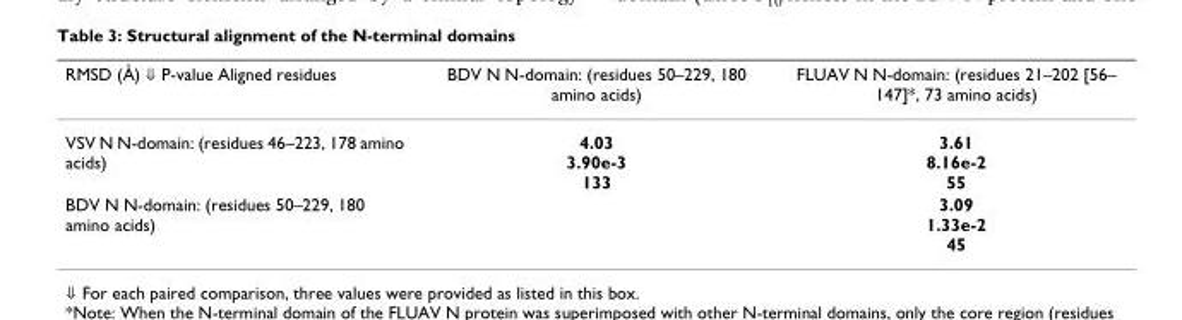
<table><thead><tr><td>RMSD (Å) ‡ P-value Aligned residues</td><td>BDV N N-domain: (residues 50–229, 180 amino acids)</td><td>FLUAV N N-domain: (residues 21–202 [56– 147]*, 73 amino acids)</td></tr></thead><tbody><tr><td>VSV N N-domain: (residues 46–223, 178 amino acids)</td><td>4.03 3.90e-3 133</td><td>3.61 8.16e-2 55</td></tr><tr><td>BDV N N-domain: (residues 50–229, 180 amino acids)</td><td></td><td>3.09 1.33e-2 45</td></tr></tbody></table>